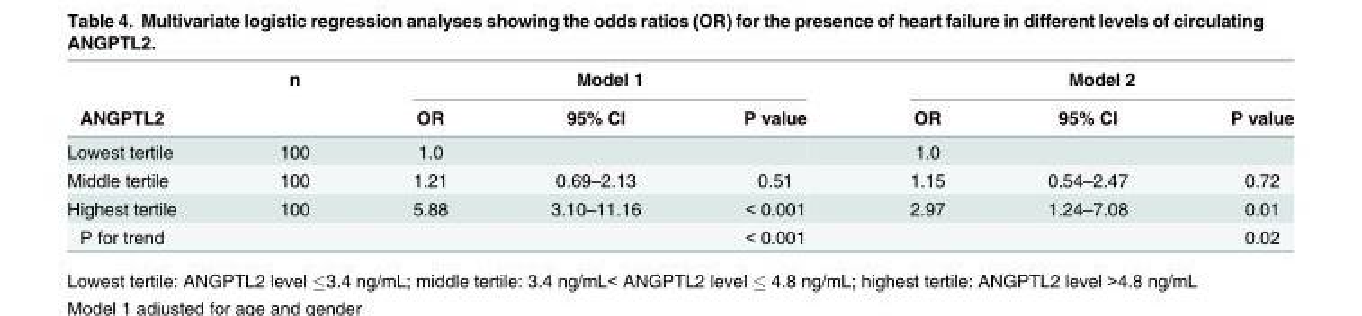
<table><thead><tr><td rowspan="2">ANGPTL2</td><td rowspan="2">n</td><td colspan="3">Model 1</td><td colspan="3">Model 2</td></tr><tr><td>OR</td><td>95% CI</td><td>P value</td><td>OR</td><td>95% CI</td><td>P value</td></tr></thead><tbody><tr><td>Lowest tertile</td><td>100</td><td>1.0</td><td></td><td></td><td>1.0</td><td></td><td></td></tr><tr><td>Middle tertile</td><td>100</td><td>1.21</td><td>0.69–2.13</td><td>0.51</td><td>1.15</td><td>0.54–2.47</td><td>0.72</td></tr><tr><td>Highest tertile</td><td>100</td><td>5.88</td><td>3.10–11.16</td><td>&lt; 0.001</td><td>2.97</td><td>1.24–7.08</td><td>0.01</td></tr><tr><td>P for trend</td><td></td><td></td><td></td><td>&lt; 0.001</td><td></td><td></td><td>0.02</td></tr></tbody></table>